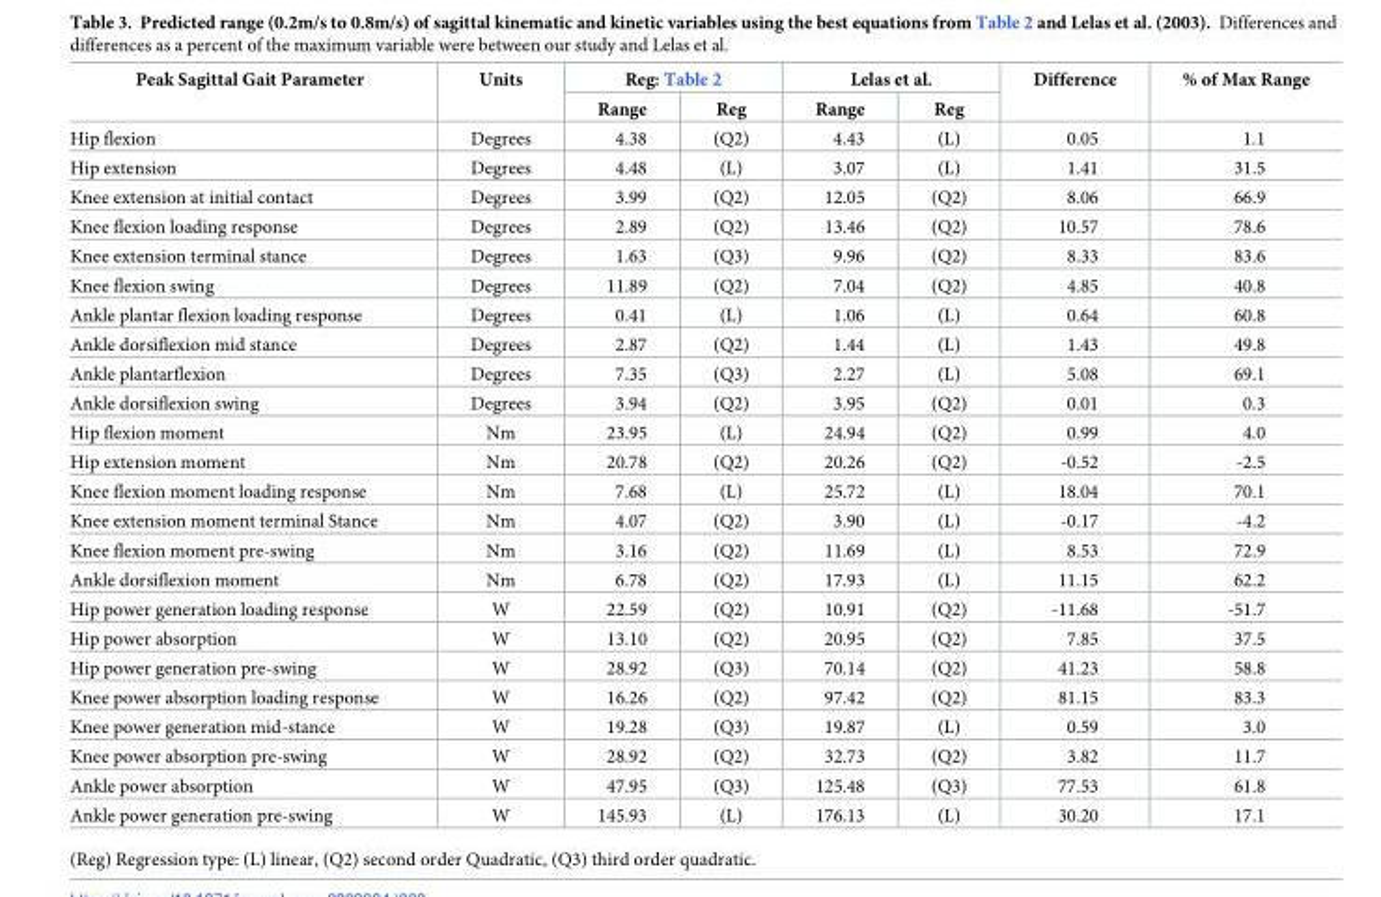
<table><thead><tr><td rowspan="2">Peak Sagittal Gait Parameter</td><td rowspan="2">Units</td><td colspan="2">Reg: Table 2</td><td colspan="2">Lelas et al.</td><td rowspan="2">Difference</td><td rowspan="2">% of Max Range</td></tr><tr><td>Range</td><td>Reg</td><td>Range</td><td>Reg</td></tr></thead><tbody><tr><td>Hip flexion</td><td>Degrees</td><td>4.38</td><td>(Q2)</td><td>4.43</td><td>(L)</td><td>0.05</td><td>1.1</td></tr><tr><td>Hip extension</td><td>Degrees</td><td>4.48</td><td>(L)</td><td>3.07</td><td>(L)</td><td>1.41</td><td>31.5</td></tr><tr><td>Knee extension at initial contact</td><td>Degrees</td><td>3.99</td><td>(Q2)</td><td>12.05</td><td>(Q2)</td><td>8.06</td><td>66.9</td></tr><tr><td>Knee flexion loading response</td><td>Degrees</td><td>2.89</td><td>(Q2)</td><td>13.46</td><td>(Q2)</td><td>10.57</td><td>78.6</td></tr><tr><td>Knee extension terminal stance</td><td>Degrees</td><td>1.63</td><td>(Q3)</td><td>9.96</td><td>(Q2)</td><td>8.33</td><td>83.6</td></tr><tr><td>Knee flexion swing</td><td>Degrees</td><td>11.89</td><td>(Q2)</td><td>7.04</td><td>(Q2)</td><td>4.85</td><td>40.8</td></tr><tr><td>Ankle plantar flexion loading response</td><td>Degrees</td><td>0.41</td><td>(L)</td><td>1.06</td><td>(L)</td><td>0.64</td><td>60.8</td></tr><tr><td>Ankle dorsiflexion mid stance</td><td>Degrees</td><td>2.87</td><td>(Q2)</td><td>1.44</td><td>(L)</td><td>1.43</td><td>49.8</td></tr><tr><td>Ankle plantarflexion</td><td>Degrees</td><td>7.35</td><td>(Q3)</td><td>2.27</td><td>(L)</td><td>5.08</td><td>69.1</td></tr><tr><td>Ankle dorsiflexion swing</td><td>Degrees</td><td>3.94</td><td>(Q2)</td><td>3.95</td><td>(Q2)</td><td>0.01</td><td>0.3</td></tr><tr><td>Hip flexion moment</td><td>Nm</td><td>23.95</td><td>(L)</td><td>24.94</td><td>(Q2)</td><td>0.99</td><td>4.0</td></tr><tr><td>Hip extension moment</td><td>Nm</td><td>20.78</td><td>(Q2)</td><td>20.26</td><td>(Q2)</td><td>-0.52</td><td>-2.5</td></tr><tr><td>Knee flexion moment loading response</td><td>Nm</td><td>7.68</td><td>(L)</td><td>25.72</td><td>(L)</td><td>18.04</td><td>70.1</td></tr><tr><td>Knee extension moment terminal Stance</td><td>Nm</td><td>4.07</td><td>(Q2)</td><td>3.90</td><td>(L)</td><td>-0.17</td><td>-4.2</td></tr><tr><td>Knee flexion moment pre-swing</td><td>Nm</td><td>3.16</td><td>(Q2)</td><td>11.69</td><td>(L)</td><td>8.53</td><td>72.9</td></tr><tr><td>Ankle dorsiflexion moment</td><td>Nm</td><td>6.78</td><td>(Q2)</td><td>17.93</td><td>(L)</td><td>11.15</td><td>62.2</td></tr><tr><td>Hip power generation loading response</td><td>W</td><td>22.59</td><td>(Q2)</td><td>10.91</td><td>(Q2)</td><td>-11.68</td><td>-51.7</td></tr><tr><td>Hip power absorption</td><td>W</td><td>13.10</td><td>(Q2)</td><td>20.95</td><td>(Q2)</td><td>7.85</td><td>37.5</td></tr><tr><td>Hip power generation pre-swing</td><td>W</td><td>28.92</td><td>(Q3)</td><td>70.14</td><td>(Q2)</td><td>41.23</td><td>58.8</td></tr><tr><td>Knee power absorption loading response</td><td>W</td><td>16.26</td><td>(Q2)</td><td>97.42</td><td>(Q2)</td><td>81.15</td><td>83.3</td></tr><tr><td>Knee power generation mid-stance</td><td>W</td><td>19.28</td><td>(Q3)</td><td>19.87</td><td>(L)</td><td>0.59</td><td>3.0</td></tr><tr><td>Knee power absorption pre-swing</td><td>W</td><td>28.92</td><td>(Q2)</td><td>32.73</td><td>(Q2)</td><td>3.82</td><td>11.7</td></tr><tr><td>Ankle power absorption</td><td>W</td><td>47.95</td><td>(Q3)</td><td>125.48</td><td>(Q3)</td><td>77.53</td><td>61.8</td></tr><tr><td>Ankle power generation pre-swing</td><td>W</td><td>145.93</td><td>(L)</td><td>176.13</td><td>(L)</td><td>30.20</td><td>17.1</td></tr></tbody></table>